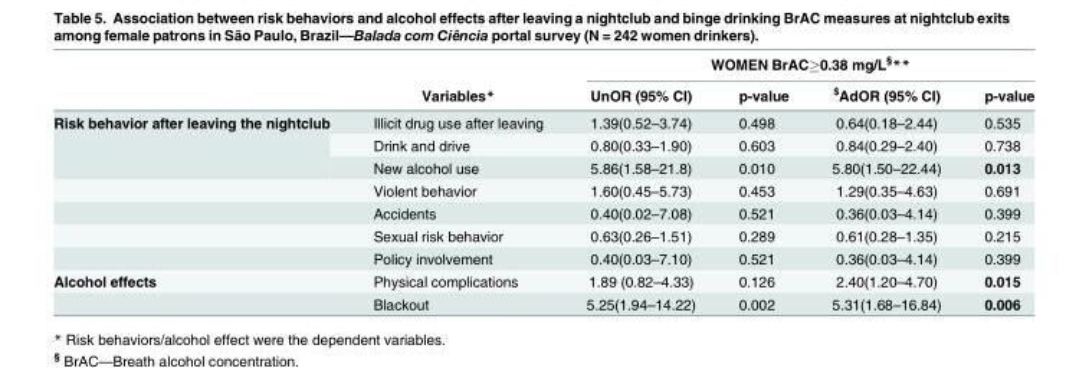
<table><thead><tr><td rowspan="2"></td><td rowspan="2">Variables*</td><td colspan="4">WOMEN BrAC≥0.38 mg/L<sup>§</sup>**</td></tr><tr><td>UnOR (95% CI)</td><td>p-value</td><td><sup>$</sup>AdOR (95% CI)</td><td>p-value</td></tr></thead><tbody><tr><td rowspan="7">Risk behavior after leaving the nightclub</td><td>Illicit drug use after leaving</td><td>1.39(0.52–3.74)</td><td>0.498</td><td>0.64(0.18–2.44)</td><td>0.535</td></tr><tr><td>Drink and drive</td><td>0.80(0.33–1.90)</td><td>0.603</td><td>0.84(0.29–2.40)</td><td>0.738</td></tr><tr><td>New alcohol use</td><td>5.86(1.58–21.8)</td><td>0.010</td><td>5.80(1.50–22.44)</td><td>0.013</td></tr><tr><td>Violent behavior</td><td>1.60(0.45–5.73)</td><td>0.453</td><td>1.29(0.35–4.63)</td><td>0.691</td></tr><tr><td>Accidents</td><td>0.40(0.02–7.08)</td><td>0.521</td><td>0.36(0.03–4.14)</td><td>0.399</td></tr><tr><td>Sexual risk behavior</td><td>0.63(0.26–1.51)</td><td>0.289</td><td>0.61(0.28–1.35)</td><td>0.215</td></tr><tr><td>Policy involvement</td><td>0.40(0.03–7.10)</td><td>0.521</td><td>0.36(0.03–4.14)</td><td>0.399</td></tr><tr><td rowspan="2">Alcohol effects</td><td>Physical complications</td><td>1.89 (0.82–4.33)</td><td>0.126</td><td>2.40(1.20–4.70)</td><td>0.015</td></tr><tr><td>Blackout</td><td>5.25(1.94–14.22)</td><td>0.002</td><td>5.31(1.68–16.84)</td><td>0.006</td></tr></tbody></table>